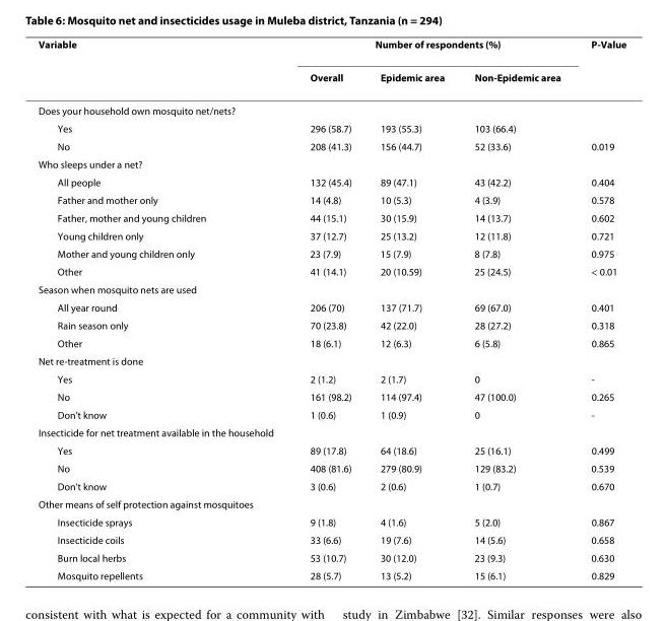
<table><thead><tr><td rowspan="2">Variable</td><td colspan="3">Number of respondents (%)</td><td rowspan="2">P-Value</td></tr><tr><td>Overall</td><td>Epidemic area</td><td>Non-Epidemic area</td></tr></thead><tbody><tr><td colspan="5">Does your household own mosquito net/nets?</td></tr><tr><td>Yes</td><td>296 (58.7)</td><td>193 (55.3)</td><td>103 (66.4)</td><td></td></tr><tr><td>No</td><td>208 (41.3)</td><td>156 (44.7)</td><td>52 (33.6)</td><td>0.019</td></tr><tr><td colspan="5">Who sleeps under a net?</td></tr><tr><td>All people</td><td>132 (45.4)</td><td>89 (47.1)</td><td>43 (42.2)</td><td>0.404</td></tr><tr><td>Father and mother only</td><td>14 (4.8)</td><td>10 (5.3)</td><td>4 (3.9)</td><td>0.578</td></tr><tr><td>Father, mother and young children</td><td>44 (15.1)</td><td>30 (15.9)</td><td>14 (13.7)</td><td>0.602</td></tr><tr><td>Young children only</td><td>37 (12.7)</td><td>25 (13.2)</td><td>12 (11.8)</td><td>0.721</td></tr><tr><td>Mother and young children only</td><td>23 (7.9)</td><td>15 (7.9)</td><td>8 (7.8)</td><td>0.975</td></tr><tr><td>Other</td><td>41 (14.1)</td><td>20 (10.59)</td><td>25 (24.5)</td><td>&lt; 0.01</td></tr><tr><td colspan="5">Season when mosquito nets are used</td></tr><tr><td>All year round</td><td>206 (70)</td><td>137 (71.7)</td><td>69 (67.0)</td><td>0.401</td></tr><tr><td>Rain season only</td><td>70 (23.8)</td><td>42 (22.0)</td><td>28 (27.2)</td><td>0.318</td></tr><tr><td>Other</td><td>18 (6.1)</td><td>12 (6.3)</td><td>6 (5.8)</td><td>0.865</td></tr><tr><td colspan="5">Net re-treatment is done</td></tr><tr><td>Yes</td><td>2 (1.2)</td><td>2 (1.7)</td><td>0</td><td>-</td></tr><tr><td>No</td><td>161 (98.2)</td><td>114 (97.4)</td><td>47 (100.0)</td><td>0.265</td></tr><tr><td>Don&#x27;t know</td><td>1 (0.6)</td><td>1 (0.9)</td><td>0</td><td>-</td></tr><tr><td colspan="5">Insecticide for net treatment available in the household</td></tr><tr><td>Yes</td><td>89 (17.8)</td><td>64 (18.6)</td><td>25 (16.1)</td><td>0.499</td></tr><tr><td>No</td><td>408 (81.6)</td><td>279 (80.9)</td><td>129 (83.2)</td><td>0.539</td></tr><tr><td>Don&#x27;t know</td><td>3 (0.6)</td><td>2 (0.6)</td><td>1 (0.7)</td><td>0.670</td></tr><tr><td colspan="5">Other means of self protection against mosquitoes</td></tr><tr><td>Insecticide sprays</td><td>9 (1.8)</td><td>4 (1.6)</td><td>5 (2.0)</td><td>0.867</td></tr><tr><td>Insecticide coils</td><td>33 (6.6)</td><td>19 (7.6)</td><td>14 (5.6)</td><td>0.658</td></tr><tr><td>Burn local herbs</td><td>53 (10.7)</td><td>30 (12.0)</td><td>23 (9.3)</td><td>0.630</td></tr><tr><td>Mosquito repellents</td><td>28 (5.7)</td><td>13 (5.2)</td><td>15 (6.1)</td><td>0.829</td></tr></tbody></table>